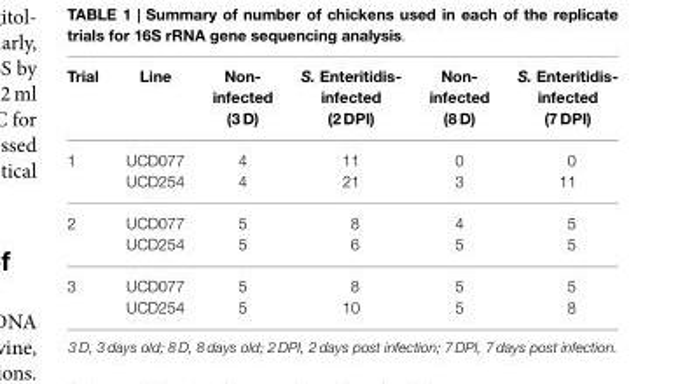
<table><thead><tr><td>Trial</td><td>Line</td><td>Non- infected (3 D)</td><td>S. Enteritidis- infected (2 DPI)</td><td>Non- infected (8 D)</td><td>S. Enteritidis- infected (7 DPI)</td></tr></thead><tbody><tr><td rowspan="2">1</td><td>UCD077</td><td>4</td><td>11</td><td>0</td><td>0</td></tr><tr><td>UCD254</td><td>4</td><td>21</td><td>3</td><td>11</td></tr><tr><td rowspan="2">2</td><td>UCD077</td><td>5</td><td>8</td><td>4</td><td>5</td></tr><tr><td>UCD254</td><td>5</td><td>6</td><td>5</td><td>5</td></tr><tr><td rowspan="2">3</td><td>UCD077</td><td>5</td><td>8</td><td>5</td><td>5</td></tr><tr><td>UCD254</td><td>5</td><td>10</td><td>5</td><td>8</td></tr></tbody></table>